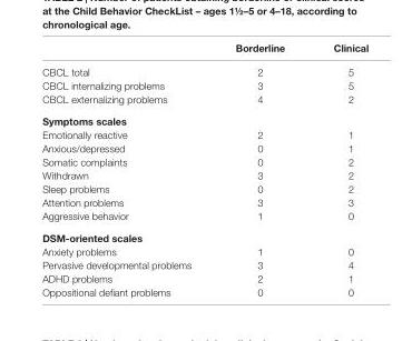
<table><thead><tr><td></td><td>borderline</td><td>clinical</td></tr></thead><tbody><tr><td>CBCL total</td><td>2</td><td>5</td></tr><tr><td>CBCL internalizing problems</td><td>3</td><td>5</td></tr><tr><td>CBCL externalizing problems</td><td>4</td><td>2</td></tr><tr><td colspan="3">symptoms scales</td></tr><tr><td>Emotionally reactive</td><td>2</td><td>1</td></tr><tr><td>Anxious/depressed</td><td>0</td><td>1</td></tr><tr><td>Somatic complaints</td><td>0</td><td>2</td></tr><tr><td>Withdrawn</td><td>3</td><td>2</td></tr><tr><td>Sleep problems</td><td>0</td><td>2</td></tr><tr><td>Attention problems</td><td>3</td><td>3</td></tr><tr><td>Aggressive behavior</td><td>1</td><td>0</td></tr><tr><td colspan="3">DsM-oriented scales</td></tr><tr><td>Anxiety problems</td><td>1</td><td>0</td></tr><tr><td>Pervasive developmental problems</td><td>3</td><td>4</td></tr><tr><td>ADHD problems</td><td>2</td><td>1</td></tr><tr><td>Oppositional defiant problems</td><td>0</td><td>0</td></tr></tbody></table>